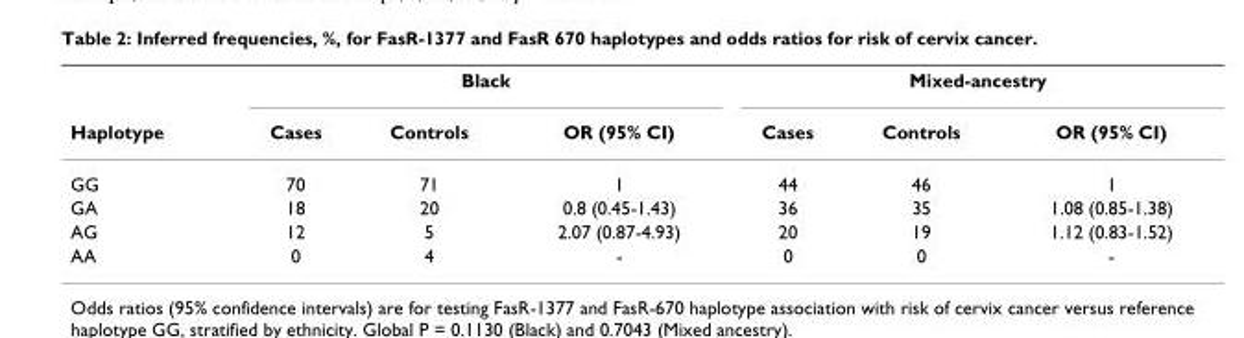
<table><thead><tr><td rowspan="2">Haplotype</td><td colspan="3">Black</td><td colspan="3">Mixed-ancestry</td></tr><tr><td>Cases</td><td>Controls</td><td>OR (95% CI)</td><td>Cases</td><td>Controls</td><td>OR (95% CI)</td></tr></thead><tbody><tr><td>GG</td><td>70</td><td>71</td><td>1</td><td>44</td><td>46</td><td>1</td></tr><tr><td>GA</td><td>18</td><td>20</td><td>0.8 (0.45-1.43)</td><td>36</td><td>35</td><td>1.08 (0.85-1.38)</td></tr><tr><td>AG</td><td>12</td><td>5</td><td>2.07 (0.87-4.93)</td><td>20</td><td>19</td><td>1.12 (0.83-1.52)</td></tr><tr><td>AA</td><td>0</td><td>4</td><td>-</td><td>0</td><td>0</td><td>-</td></tr></tbody></table>